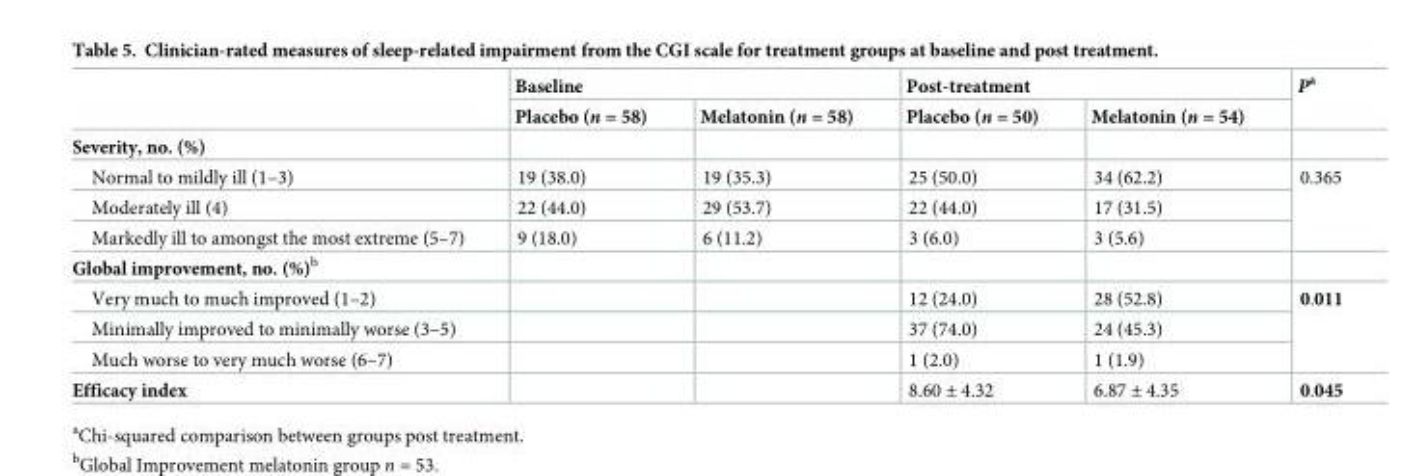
<table><thead><tr><td rowspan="2"></td><td colspan="2">Baseline</td><td colspan="2">Post-treatment</td><td rowspan="2">P<sup>a</sup></td></tr><tr><td>Placebo (n = 58)</td><td>Melatonin (n = 58)</td><td>Placebo (n = 50)</td><td>Melatonin (n = 54)</td></tr></thead><tbody><tr><td colspan="6">Severity, no. (%)</td></tr><tr><td>Normal to mildly ill (1–3)</td><td>19 (38.0)</td><td>19 (35.3)</td><td>25 (50.0)</td><td>34 (62.2)</td><td rowspan="3">0.365</td></tr><tr><td>Moderately ill (4)</td><td>22 (44.0)</td><td>29 (53.7)</td><td>22 (44.0)</td><td>17 (31.5)</td></tr><tr><td>Markedly ill to amongst the most extreme (5–7)</td><td>9 (18.0)</td><td>6 (11.2)</td><td>3 (6.0)</td><td>3 (5.6)</td></tr><tr><td colspan="6">Global improvement, no. (%)<sup>b</sup></td></tr><tr><td>Very much to much improved (1–2)</td><td></td><td></td><td>12 (24.0)</td><td>28 (52.8)</td><td rowspan="3">0.011</td></tr><tr><td>Minimally improved to minimally worse (3–5)</td><td></td><td></td><td>37 (74.0)</td><td>24 (45.3)</td></tr><tr><td>Much worse to very much worse (6–7)</td><td></td><td></td><td>1 (2.0)</td><td>1 (1.9)</td></tr><tr><td>Efficacy index</td><td></td><td></td><td>8.60 ± 4.32</td><td>6.87 ± 4.35</td><td>0.045</td></tr></tbody></table>